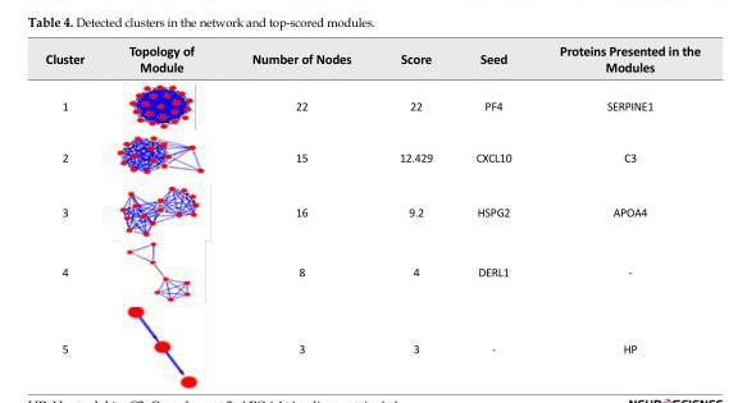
<table><thead><tr><td>Cluster</td><td>Topology of Module</td><td>Number of Nodes</td><td>Score</td><td>Seed</td><td>Proteins Presented in the Modules</td></tr></thead><tbody><tr><td>1</td><td></td><td>22</td><td>22</td><td>PF4</td><td>SERPINE1</td></tr><tr><td>2</td><td></td><td>15</td><td>12.429</td><td>CXCL10</td><td>C3</td></tr><tr><td>3</td><td></td><td>16</td><td>9.2</td><td>HSPG2</td><td>APOA4</td></tr><tr><td>4</td><td></td><td>8</td><td>4</td><td>DERL1</td><td>-</td></tr><tr><td>5</td><td></td><td>3</td><td>3</td><td>-</td><td>HP</td></tr></tbody></table>